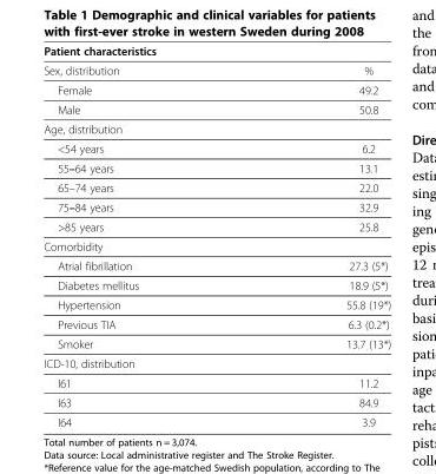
<table><thead><tr><td>Patient characteristics</td><td></td></tr></thead><tbody><tr><td>Sex, distribution</td><td>%</td></tr><tr><td>Female</td><td>49.2</td></tr><tr><td>Male</td><td>50.8</td></tr><tr><td colspan="2">Age, distribution</td></tr><tr><td>&lt;54 years</td><td>6.2</td></tr><tr><td>55–64 years</td><td>13.1</td></tr><tr><td>65–74 years</td><td>22.0</td></tr><tr><td>75–84 years</td><td>32.9</td></tr><tr><td>&gt;85 years</td><td>25.8</td></tr><tr><td colspan="2">Comorbidity</td></tr><tr><td>Atrial fibrillation</td><td>27.3 (5*)</td></tr><tr><td>Diabetes mellitus</td><td>18.9 (5*)</td></tr><tr><td>Hypertension</td><td>55.8 (19*)</td></tr><tr><td>Previous TIA</td><td>6.3 (0.2*)</td></tr><tr><td>Smoker</td><td>13.7 (13*)</td></tr><tr><td colspan="2">ICD-10, distribution</td></tr><tr><td>I61</td><td>11.2</td></tr><tr><td>I63</td><td>84.9</td></tr><tr><td>I64</td><td>3.9</td></tr></tbody></table>